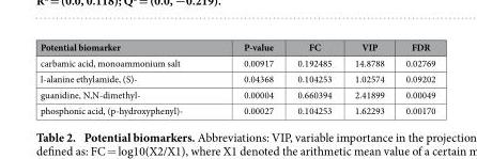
<table><thead><tr><td>Potential biomarker</td><td>P-value</td><td>FC</td><td>VIP</td><td>FDR</td></tr></thead><tbody><tr><td>carbamic acid, monoammonium salt</td><td>0.00917</td><td>0.192485</td><td>14.8788</td><td>0.02769</td></tr><tr><td>l-alanine ethylamide, (S)-</td><td>0.04368</td><td>0.104253</td><td>1.02574</td><td>0.09202</td></tr><tr><td>guanidine, N,N-dimethyl-</td><td>0.00004</td><td>0.660394</td><td>2.41899</td><td>0.00049</td></tr><tr><td>phosphonic acid, (p-hydroxyphenyl)-</td><td>0.00027</td><td>0.104253</td><td>1.62293</td><td>0.00170</td></tr></tbody></table>